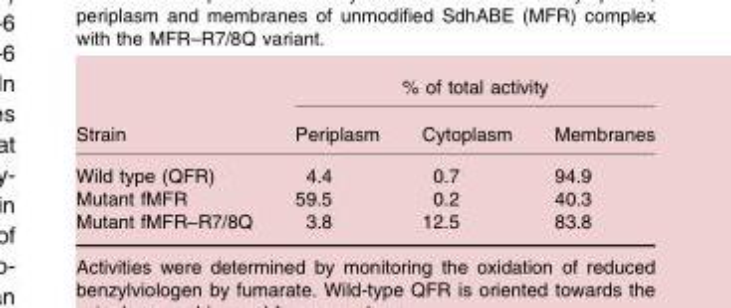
<table><thead><tr><td rowspan="2">Strain</td><td colspan="3">% of total activity</td></tr><tr><td>Periplasm</td><td>Cytoplasm</td><td>Membranes</td></tr></thead><tbody><tr><td>Wild type (QFR)</td><td>4.4</td><td>0.7</td><td>94.9</td></tr><tr><td>Mutant fMFR</td><td>59.5</td><td>0.2</td><td>40.3</td></tr><tr><td>Mutant fMFR–R7/8Q</td><td>3.8</td><td>12.5</td><td>83.8</td></tr></tbody></table>